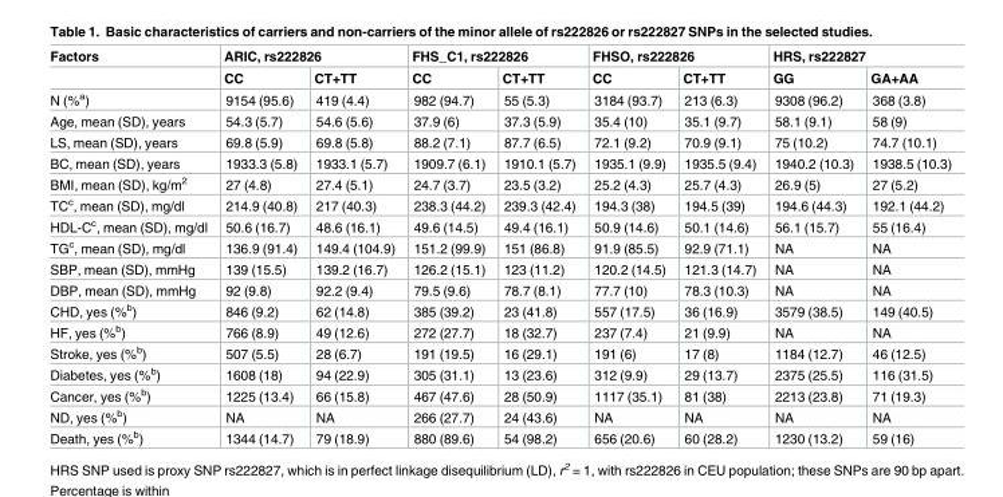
<table><thead><tr><td rowspan="2">Factors</td><td colspan="2">ARIC, rs222826</td><td colspan="2">FHS_C1, rs222826</td><td colspan="2">FHSO, rs222826</td><td colspan="2">HRS, rs222827</td></tr><tr><td>CC</td><td>CT+TT</td><td>CC</td><td>CT+TT</td><td>CC</td><td>CT+TT</td><td>GG</td><td>GA+AA</td></tr></thead><tbody><tr><td>N (%<sup>a</sup>)</td><td>9154 (95.6)</td><td>419 (4.4)</td><td>982 (94.7)</td><td>55 (5.3)</td><td>3184 (93.7)</td><td>213 (6.3)</td><td>9308 (96.2)</td><td>368 (3.8)</td></tr><tr><td>Age, mean (SD), years</td><td>54.3 (5.7)</td><td>54.6 (5.6)</td><td>37.9 (6)</td><td>37.3 (5.9)</td><td>35.4 (10)</td><td>35.1 (9.7)</td><td>58.1 (9.1)</td><td>58 (9)</td></tr><tr><td>LS, mean (SD), years</td><td>69.8 (5.9)</td><td>69.8 (5.8)</td><td>88.2 (7.1)</td><td>87.7 (6.5)</td><td>72.1 (9.2)</td><td>70.9 (9.1)</td><td>75 (10.2)</td><td>74.7 (10.1)</td></tr><tr><td>BC, mean (SD), years</td><td>1933.3 (5.8)</td><td>1933.1 (5.7)</td><td>1909.7 (6.1)</td><td>1910.1 (5.7)</td><td>1935.1 (9.9)</td><td>1935.5 (9.4)</td><td>1940.2 (10.3)</td><td>1938.5 (10.3)</td></tr><tr><td>BMI, mean (SD), kg/m<sup>2</sup></td><td>27 (4.8)</td><td>27.4 (5.1)</td><td>24.7 (3.7)</td><td>23.5 (3.2)</td><td>25.2 (4.3)</td><td>25.7 (4.3)</td><td>26.9 (5)</td><td>27 (5.2)</td></tr><tr><td>TC<sup>c</sup>, mean (SD), mg/dl</td><td>214.9 (40.8)</td><td>217 (40.3)</td><td>238.3 (44.2)</td><td>239.3 (42.4)</td><td>194.3 (38)</td><td>194.5 (39)</td><td>194.6 (44.3)</td><td>192.1 (44.2)</td></tr><tr><td>HDL-C<sup>c</sup>, mean (SD), mg/dl</td><td>50.6 (16.7)</td><td>48.6 (16.1)</td><td>49.6 (14.5)</td><td>49.4 (16.1)</td><td>50.9 (14.6)</td><td>50.1 (14.6)</td><td>56.1 (15.7)</td><td>55 (16.4)</td></tr><tr><td>TG<sup>c</sup>, mean (SD), mg/dl</td><td>136.9 (91.4)</td><td>149.4 (104.9)</td><td>151.2 (99.9)</td><td>151 (86.8)</td><td>91.9 (85.5)</td><td>92.9 (71.1)</td><td>NA</td><td>NA</td></tr><tr><td>SBP, mean (SD), mmHg</td><td>139 (15.5)</td><td>139.2 (16.7)</td><td>126.2 (15.1)</td><td>123 (11.2)</td><td>120.2 (14.5)</td><td>121.3 (14.7)</td><td>NA</td><td>NA</td></tr><tr><td>DBP, mean (SD), mmHg</td><td>92 (9.8)</td><td>92.2 (9.4)</td><td>79.5 (9.6)</td><td>78.7 (8.1)</td><td>77.7 (10)</td><td>78.3 (10.3)</td><td>NA</td><td>NA</td></tr><tr><td>CHD, yes (%<sup>b</sup>)</td><td>846 (9.2)</td><td>62 (14.8)</td><td>385 (39.2)</td><td>23 (41.8)</td><td>557 (17.5)</td><td>36 (16.9)</td><td>3579 (38.5)</td><td>149 (40.5)</td></tr><tr><td>HF, yes (%<sup>b</sup>)</td><td>766 (8.9)</td><td>49 (12.6)</td><td>272 (27.7)</td><td>18 (32.7)</td><td>237 (7.4)</td><td>21 (9.9)</td><td>NA</td><td>NA</td></tr><tr><td>Stroke, yes (%<sup>b</sup>)</td><td>507 (5.5)</td><td>28 (6.7)</td><td>191 (19.5)</td><td>16 (29.1)</td><td>191 (6)</td><td>17 (8)</td><td>1184 (12.7)</td><td>46 (12.5)</td></tr><tr><td>Diabetes, yes (%<sup>b</sup>)</td><td>1608 (18)</td><td>94 (22.9)</td><td>305 (31.1)</td><td>13 (23.6)</td><td>312 (9.9)</td><td>29 (13.7)</td><td>2375 (25.5)</td><td>116 (31.5)</td></tr><tr><td>Cancer, yes (%<sup>b</sup>)</td><td>1225 (13.4)</td><td>66 (15.8)</td><td>467 (47.6)</td><td>28 (50.9)</td><td>1117 (35.1)</td><td>81 (38)</td><td>2213 (23.8)</td><td>71 (19.3)</td></tr><tr><td>ND, yes (%<sup>b</sup>)</td><td>NA</td><td>NA</td><td>266 (27.7)</td><td>24 (43.6)</td><td>NA</td><td>NA</td><td>NA</td><td>NA</td></tr><tr><td>Death, yes (%<sup>b</sup>)</td><td>1344 (14.7)</td><td>79 (18.9)</td><td>880 (89.6)</td><td>54 (98.2)</td><td>656 (20.6)</td><td>60 (28.2)</td><td>1230 (13.2)</td><td>59 (16)</td></tr></tbody></table>